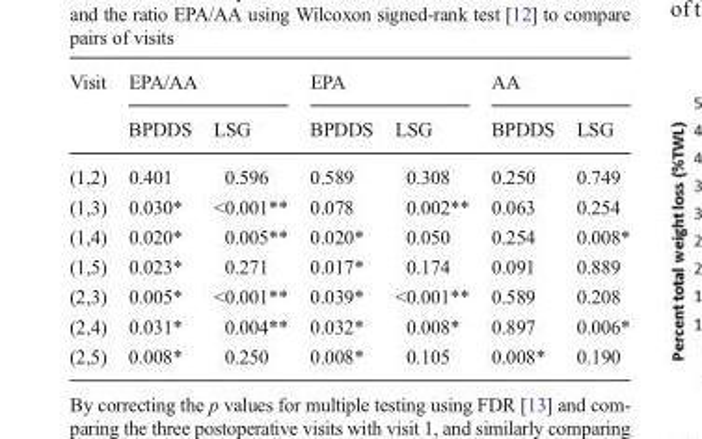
<table><thead><tr><td rowspan="2">Visit</td><td colspan="2">EPA/AA</td><td colspan="2">EPA</td><td colspan="2">AA</td></tr><tr><td>BPDDS</td><td>LSG</td><td>BPDDS</td><td>LSG</td><td>BPDDS</td><td>LSG</td></tr></thead><tbody><tr><td>(1,2)</td><td>0.401</td><td>0.596</td><td>0.589</td><td>0.308</td><td>0.250</td><td>0.749</td></tr><tr><td>(1,3)</td><td>0.030*</td><td>&lt;0.001**</td><td>0.078</td><td>0.002**</td><td>0.063</td><td>0.254</td></tr><tr><td>(1,4)</td><td>0.020*</td><td>0.005**</td><td>0.020*</td><td>0.050</td><td>0.254</td><td>0.008*</td></tr><tr><td>(1,5)</td><td>0.023*</td><td>0.271</td><td>0.017*</td><td>0.174</td><td>0.091</td><td>0.889</td></tr><tr><td>(2,3)</td><td>0.005*</td><td>&lt;0.001**</td><td>0.039*</td><td>&lt;0.001**</td><td>0.589</td><td>0.208</td></tr><tr><td>(2,4)</td><td>0.031*</td><td>0.004**</td><td>0.032*</td><td>0.008*</td><td>0.897</td><td>0.006*</td></tr><tr><td>(2,5)</td><td>0.008*</td><td>0.250</td><td>0.008*</td><td>0.105</td><td>0.008*</td><td>0.190</td></tr></tbody></table>